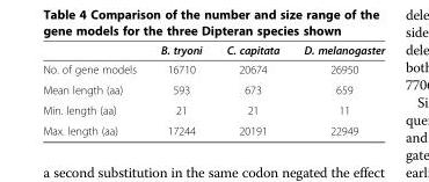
<table><thead><tr><td></td><td>B. tryoni</td><td>C. capitata</td><td>D. melanogaster</td></tr></thead><tbody><tr><td>No. of gene models</td><td>16710</td><td>20674</td><td>26950</td></tr><tr><td>Mean length (aa)</td><td>593</td><td>673</td><td>659</td></tr><tr><td>Min. length (aa)</td><td>21</td><td>21</td><td>11</td></tr><tr><td>Max. length (aa)</td><td>17244</td><td>20191</td><td>22949</td></tr></tbody></table>